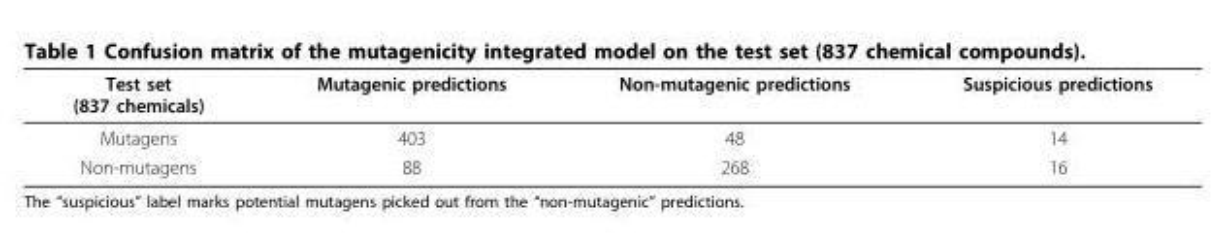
<table><thead><tr><td>Test set (837 chemicals)</td><td>Mutagenic predictions</td><td>Non-mutagenic predictions</td><td>Suspicious predictions</td></tr></thead><tbody><tr><td>Mutagens</td><td>403</td><td>48</td><td>14</td></tr><tr><td>Non-mutagens</td><td>88</td><td>268</td><td>16</td></tr></tbody></table>